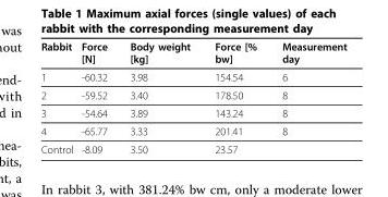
<table><thead><tr><td>Rabbit</td><td>Force [N]</td><td>Body weight [kg]</td><td>Force [% bw]</td><td>Measurement day</td></tr></thead><tbody><tr><td>1</td><td>-60.32</td><td>3.98</td><td>154.54</td><td>6</td></tr><tr><td>2</td><td>-59.52</td><td>3.40</td><td>178.50</td><td>8</td></tr><tr><td>3</td><td>-54.64</td><td>3.89</td><td>143.24</td><td>8</td></tr><tr><td>4</td><td>-65.77</td><td>3.33</td><td>201.41</td><td>8</td></tr><tr><td>Control</td><td>-8.09</td><td>3.50</td><td>23.57</td><td></td></tr></tbody></table>